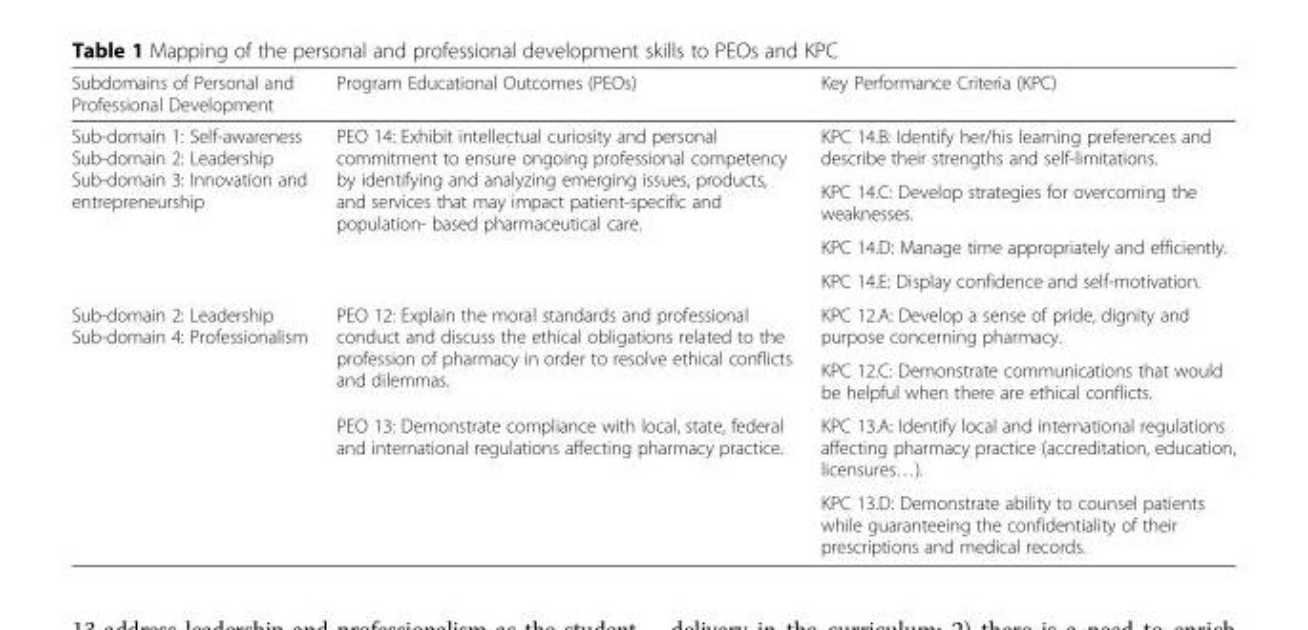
<table><thead><tr><td>Subdomains of Personal and Professional Development</td><td>Program Educational Outcomes (PEOs)</td><td>Key Performance Criteria (KPC)</td></tr></thead><tbody><tr><td rowspan="4">Sub-domain 1: Self-awareness Sub-domain 2: Leadership Sub-domain 3: Innovation and entrepreneurship</td><td rowspan="4">PEO 14: Exhibit intellectual curiosity and personal commitment to ensure ongoing professional competency by identifying and analyzing emerging issues, products, and services that may impact patient-specific and population- based pharmaceutical care.</td><td>KPC 14.B: Identify her/his learning preferences and describe their strengths and self-limitations.</td></tr><tr><td>KPC 14.C: Develop strategies for overcoming the weaknesses.</td></tr><tr><td>KPC 14.D: Manage time appropriately and efficiently.</td></tr><tr><td>KPC 14.E: Display confidence and self-motivation.</td></tr><tr><td rowspan="4">Sub-domain 2: Leadership Sub-domain 4: Professionalism</td><td rowspan="2">PEO 12: Explain the moral standards and professional conduct and discuss the ethical obligations related to the profession of pharmacy in order to resolve ethical conflicts and dilemmas.</td><td>KPC 12.A: Develop a sense of pride, dignity and purpose concerning pharmacy.</td></tr><tr><td>KPC 12.C: Demonstrate communications that would be helpful when there are ethical conflicts.</td></tr><tr><td rowspan="2">PEO 13: Demonstrate compliance with local, state, federal and international regulations affecting pharmacy practice.</td><td>KPC 13.A: Identify local and international regulations affecting pharmacy practice (accreditation, education, licensures…).</td></tr><tr><td>KPC 13.D: Demonstrate ability to counsel patients while guaranteeing the confidentiality of their prescriptions and medical records.</td></tr></tbody></table>